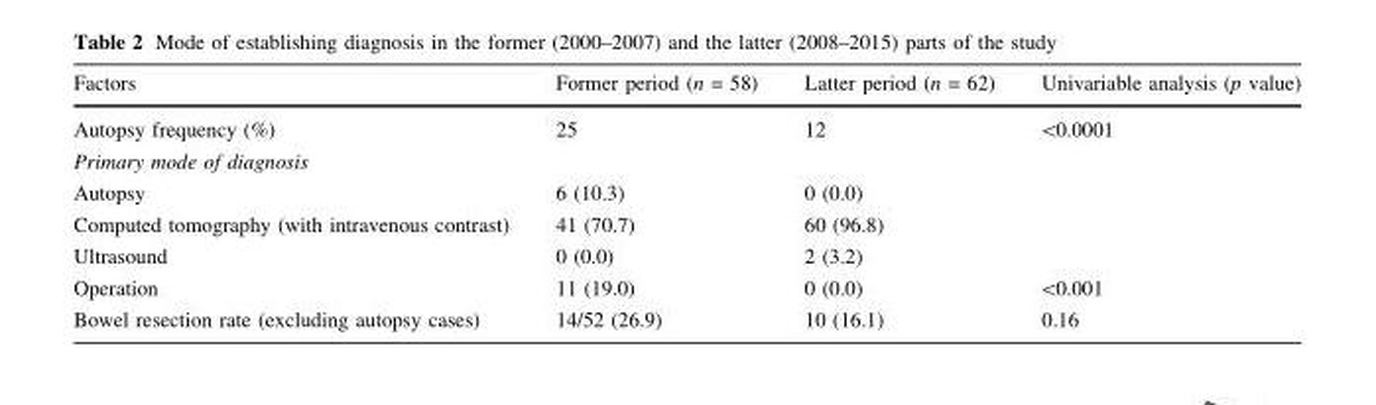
<table><thead><tr><td>Factors</td><td>Former period (n = 58)</td><td>Latter period (n = 62)</td><td>Univariable analysis (p value)</td></tr></thead><tbody><tr><td>Autopsy frequency (%)</td><td>25</td><td>12</td><td>&lt;0.0001</td></tr><tr><td colspan="4">Primary mode of diagnosis</td></tr><tr><td>Autopsy</td><td>6 (10.3)</td><td>0 (0.0)</td><td></td></tr><tr><td>Computed tomography (with intravenous contrast)</td><td>41 (70.7)</td><td>60 (96.8)</td><td></td></tr><tr><td>Ultrasound</td><td>0 (0.0)</td><td>2 (3.2)</td><td></td></tr><tr><td>Operation</td><td>11 (19.0)</td><td>0 (0.0)</td><td>&lt;0.001</td></tr><tr><td>Bowel resection rate (excluding autopsy cases)</td><td>14/52 (26.9)</td><td>10 (16.1)</td><td>0.16</td></tr></tbody></table>